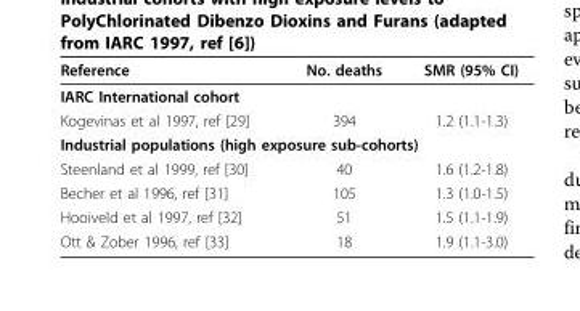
<table><thead><tr><td>Reference</td><td>No. deaths</td><td>SMR (95% CI)</td></tr></thead><tbody><tr><td colspan="3">IARC International cohort</td></tr><tr><td>Kogevinas et al 1997, ref [29]</td><td>394</td><td>1.2 (1.1-1.3)</td></tr><tr><td colspan="3">Industrial populations (high exposure sub-cohorts)</td></tr><tr><td>Steenland et al 1999, ref [30]</td><td>40</td><td>1.6 (1.2-1.8)</td></tr><tr><td>Becher et al 1996, ref [31]</td><td>105</td><td>1.3 (1.0-1.5)</td></tr><tr><td>Hooiveld et al 1997, ref [32]</td><td>51</td><td>1.5 (1.1-1.9)</td></tr><tr><td>Ott &amp; Zober 1996, ref [33]</td><td>18</td><td>1.9 (1.1-3.0)</td></tr></tbody></table>